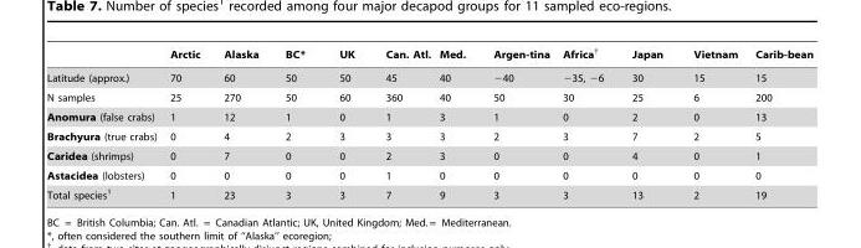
<table><thead><tr><td></td><td>Arctic</td><td>Alaska</td><td>BC*</td><td>UK</td><td>Can. Atl.</td><td>Med.</td><td>Argen-tina</td><td>Africa†</td><td>Japan</td><td>Vietnam</td><td>Carib-bean</td></tr></thead><tbody><tr><td>Latitude (approx.)</td><td>70</td><td>60</td><td>50</td><td>50</td><td>45</td><td>40</td><td>−40</td><td>−35, −6</td><td>30</td><td>15</td><td>15</td></tr><tr><td>N samples</td><td>25</td><td>270</td><td>50</td><td>60</td><td>360</td><td>40</td><td>50</td><td>30</td><td>25</td><td>6</td><td>200</td></tr><tr><td>Anomura (false crabs)</td><td>1</td><td>12</td><td>1</td><td>0</td><td>1</td><td>3</td><td>1</td><td>0</td><td>2</td><td>0</td><td>13</td></tr><tr><td>Brachyura (true crabs)</td><td>0</td><td>4</td><td>2</td><td>3</td><td>3</td><td>3</td><td>2</td><td>3</td><td>7</td><td>2</td><td>5</td></tr><tr><td>Caridea (shrimps)</td><td>0</td><td>7</td><td>0</td><td>0</td><td>2</td><td>3</td><td>0</td><td>0</td><td>4</td><td>0</td><td>1</td></tr><tr><td>Astacidea (lobsters)</td><td>0</td><td>0</td><td>0</td><td>0</td><td>1</td><td>0</td><td>0</td><td>0</td><td>0</td><td>0</td><td>0</td></tr><tr><td>Total species<sup>1</sup></td><td>1</td><td>23</td><td>3</td><td>3</td><td>7</td><td>9</td><td>3</td><td>3</td><td>13</td><td>2</td><td>19</td></tr></tbody></table>